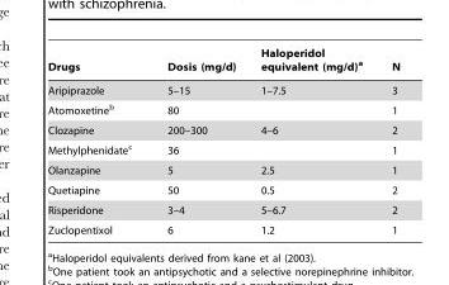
<table><thead><tr><td>Drugs</td><td>Dosis (mg/d)</td><td>Haloperidol equivalent (mg/d)<sup>a</sup></td><td>N</td></tr></thead><tbody><tr><td>Aripiprazole</td><td>5–15</td><td>1–7.5</td><td>3</td></tr><tr><td>Atomoxetine<sup>b</sup></td><td>80</td><td></td><td>1</td></tr><tr><td>Clozapine</td><td>200–300</td><td>4–6</td><td>2</td></tr><tr><td>Methylphenidate<sup>c</sup></td><td>36</td><td></td><td>1</td></tr><tr><td>Olanzapine</td><td>5</td><td>2.5</td><td>1</td></tr><tr><td>Quetiapine</td><td>50</td><td>0.5</td><td>2</td></tr><tr><td>Risperidone</td><td>3–4</td><td>5–6.7</td><td>2</td></tr><tr><td>Zuclopentixol</td><td>6</td><td>1.2</td><td>1</td></tr></tbody></table>